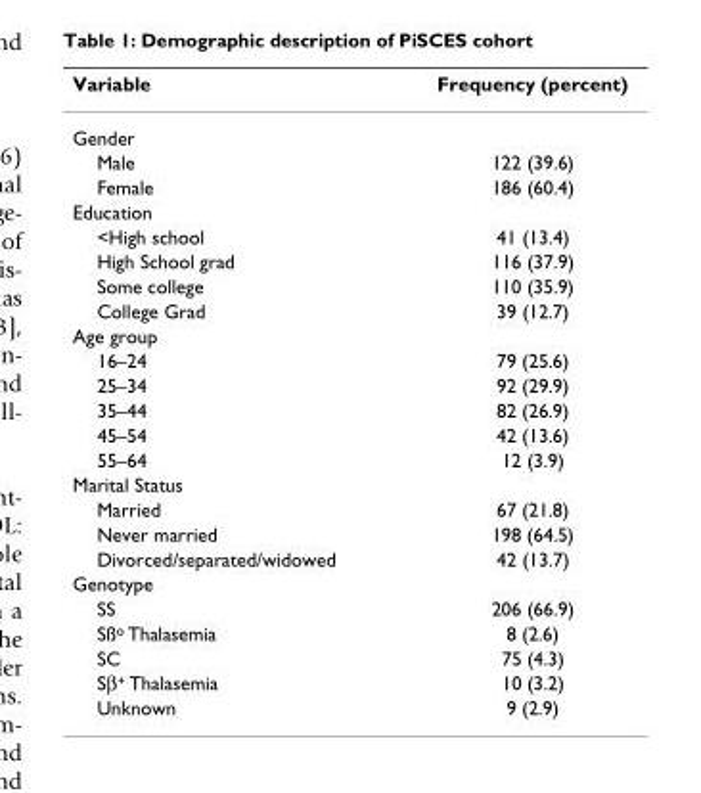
<table><thead><tr><td>Variable</td><td>Frequency (percent)</td></tr></thead><tbody><tr><td colspan="2">Gender</td></tr><tr><td>Male</td><td>122 (39.6)</td></tr><tr><td>Female</td><td>186 (60.4)</td></tr><tr><td colspan="2">Education</td></tr><tr><td>&lt;High school</td><td>41 (13.4)</td></tr><tr><td>High School grad</td><td>116 (37.9)</td></tr><tr><td>Some college</td><td>110 (35.9)</td></tr><tr><td>College Grad</td><td>39 (12.7)</td></tr><tr><td colspan="2">Age group</td></tr><tr><td>16–24</td><td>79 (25.6)</td></tr><tr><td>25–34</td><td>92 (29.9)</td></tr><tr><td>35–44</td><td>82 (26.9)</td></tr><tr><td>45–54</td><td>42 (13.6)</td></tr><tr><td>55–64</td><td>12 (3.9)</td></tr><tr><td colspan="2">Marital Status</td></tr><tr><td>Married</td><td>67 (21.8)</td></tr><tr><td>Never married</td><td>198 (64.5)</td></tr><tr><td>Divorced/separated/widowed</td><td>42 (13.7)</td></tr><tr><td colspan="2">Genotype</td></tr><tr><td>SS</td><td>206 (66.9)</td></tr><tr><td>Sß<sup>o</sup> Thalasemia</td><td>8 (2.6)</td></tr><tr><td>SC</td><td>75 (4.3)</td></tr><tr><td>Sβ<sup>+</sup> Thalasemia</td><td>10 (3.2)</td></tr><tr><td>Unknown</td><td>9 (2.9)</td></tr></tbody></table>